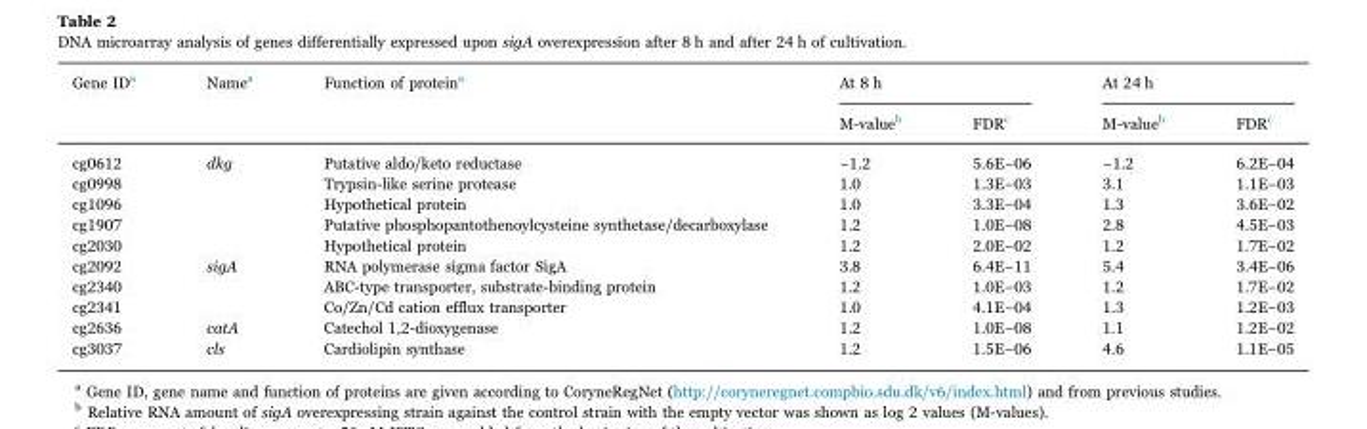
<table><thead><tr><td rowspan="2">Gene ID<sup>a</sup></td><td rowspan="2">Name<sup>a</sup></td><td rowspan="2">Function of protein<sup>a</sup></td><td colspan="2">At 8 h</td><td colspan="2">At 24 h</td></tr><tr><td>M-value<sup>b</sup></td><td>FDR<sup>c</sup></td><td>M-value<sup>b</sup></td><td>FDR<sup>c</sup></td></tr></thead><tbody><tr><td>cg0612</td><td>dkg</td><td>Putative aldo/keto reductase</td><td>−1.2</td><td>5.6E−06</td><td>−1.2</td><td>6.2E−04</td></tr><tr><td>cg0998</td><td></td><td>Trypsin-like serine protease</td><td>1.0</td><td>1.3E−03</td><td>3.1</td><td>1.1E−03</td></tr><tr><td>cg1096</td><td></td><td>Hypothetical protein</td><td>1.0</td><td>3.3E−04</td><td>1.3</td><td>3.6E−02</td></tr><tr><td>cg1907</td><td></td><td>Putative phosphopantothenoylcysteine synthetase/decarboxylase</td><td>1.2</td><td>1.0E−08</td><td>2.8</td><td>4.5E−03</td></tr><tr><td>cg2030</td><td></td><td>Hypothetical protein</td><td>1.2</td><td>2.0E−02</td><td>1.2</td><td>1.7E−02</td></tr><tr><td>cg2092</td><td>sigA</td><td>RNA polymerase sigma factor SigA</td><td>3.8</td><td>6.4E−11</td><td>5.4</td><td>3.4E−06</td></tr><tr><td>cg2340</td><td></td><td>ABC-type transporter, substrate-binding protein</td><td>1.2</td><td>1.0E−03</td><td>1.2</td><td>1.7E−02</td></tr><tr><td>cg2341</td><td></td><td>Co/Zn/Cd cation efflux transporter</td><td>1.0</td><td>4.1E−04</td><td>1.3</td><td>1.2E−03</td></tr><tr><td>cg2636</td><td>catA</td><td>Catechol 1,2-dioxygenase</td><td>1.2</td><td>1.0E−08</td><td>1.1</td><td>1.2E−02</td></tr><tr><td>cg3037</td><td>cls</td><td>Cardiolipin synthase</td><td>1.2</td><td>1.5E−06</td><td>4.6</td><td>1.1E−05</td></tr></tbody></table>